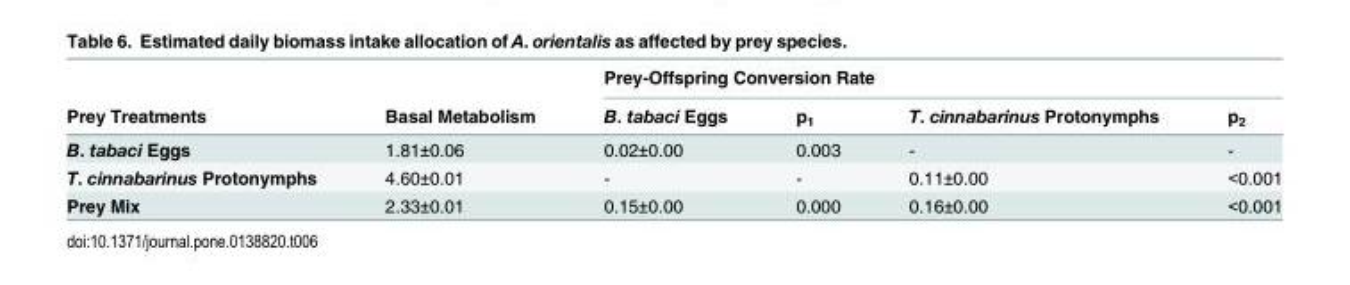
<table><thead><tr><td rowspan="2">Prey Treatments</td><td rowspan="2">Basal Metabolism</td><td colspan="4">Prey-Offspring Conversion Rate</td></tr><tr><td>B. tabaci Eggs</td><td>p<sub>1</sub></td><td>T. cinnabarinus Protonymphs</td><td>p<sub>2</sub></td></tr></thead><tbody><tr><td>B. tabaci Eggs</td><td>1.81±0.06</td><td>0.02±0.00</td><td>0.003</td><td>-</td><td>-</td></tr><tr><td>T. cinnabarinus Protonymphs</td><td>4.60±0.01</td><td>-</td><td>-</td><td>0.11±0.00</td><td>&lt;0.001</td></tr><tr><td>Prey Mix</td><td>2.33±0.01</td><td>0.15±0.00</td><td>0.000</td><td>0.16±0.00</td><td>&lt;0.001</td></tr></tbody></table>